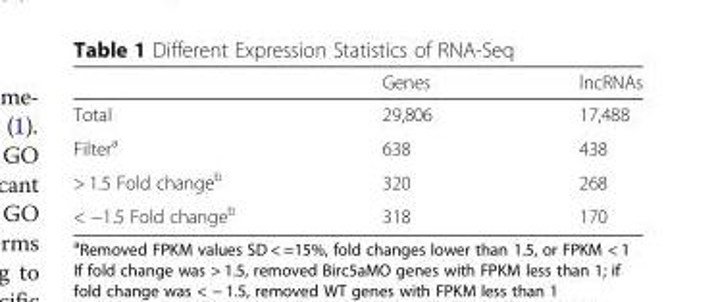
<table><thead><tr><td></td><td>Genes</td><td>lncRNAs</td></tr></thead><tbody><tr><td>Total</td><td>29,806</td><td>17,488</td></tr><tr><td>Filter<sup>a</sup></td><td>638</td><td>438</td></tr><tr><td>&gt; 1.5 Fold change<sup>b</sup></td><td>320</td><td>268</td></tr><tr><td>&lt; −1.5 Fold change<sup>b</sup></td><td>318</td><td>170</td></tr></tbody></table>